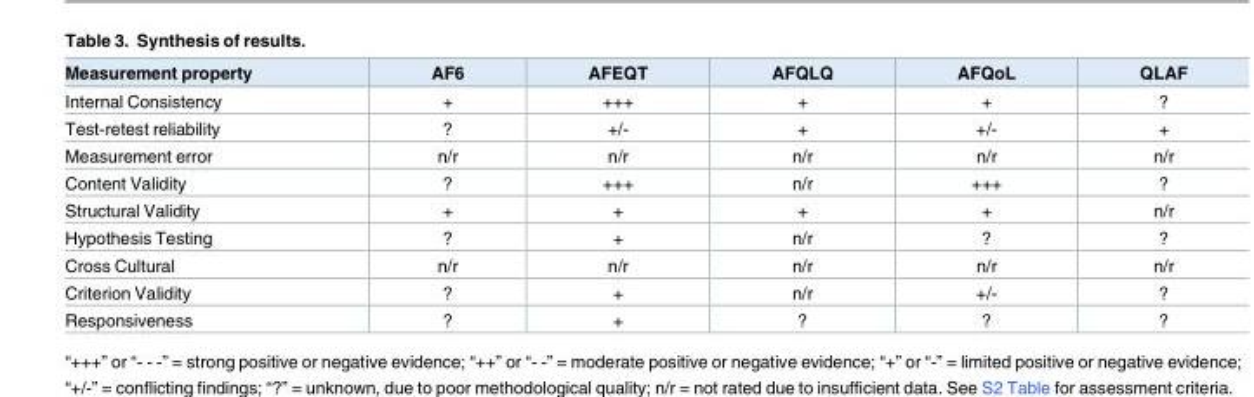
<table><thead><tr><td>Measurement property</td><td>AF6</td><td>AFEQT</td><td>AFQLQ</td><td>AFQoL</td><td>QLAF</td></tr></thead><tbody><tr><td>Internal Consistency</td><td>+</td><td>+++</td><td>+</td><td>+</td><td>?</td></tr><tr><td>Test-retest reliability</td><td>?</td><td>+/-</td><td>+</td><td>+/-</td><td>+</td></tr><tr><td>Measurement error</td><td>n/r</td><td>n/r</td><td>n/r</td><td>n/r</td><td>n/r</td></tr><tr><td>Content Validity</td><td>?</td><td>+++</td><td>n/r</td><td>+++</td><td>?</td></tr><tr><td>Structural Validity</td><td>+</td><td>+</td><td>+</td><td>+</td><td>n/r</td></tr><tr><td>Hypothesis Testing</td><td>?</td><td>+</td><td>n/r</td><td>?</td><td>?</td></tr><tr><td>Cross Cultural</td><td>n/r</td><td>n/r</td><td>n/r</td><td>n/r</td><td>n/r</td></tr><tr><td>Criterion Validity</td><td>?</td><td>+</td><td>n/r</td><td>+/-</td><td>?</td></tr><tr><td>Responsiveness</td><td>?</td><td>+</td><td>?</td><td>?</td><td>?</td></tr></tbody></table>